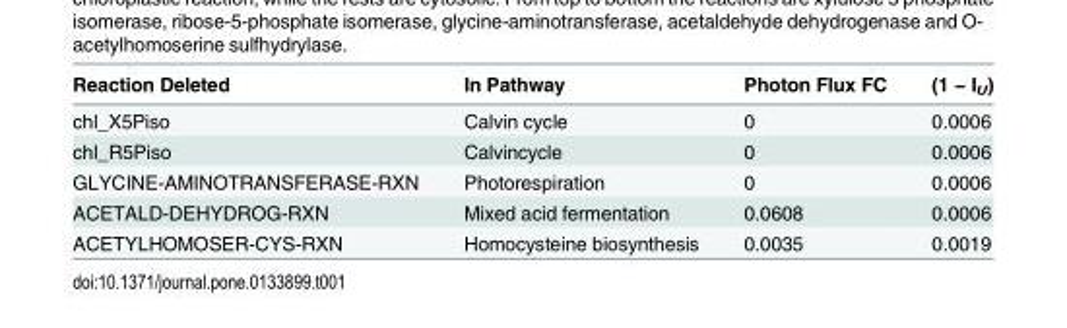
<table><thead><tr><td>Reaction Deleted</td><td>In Pathway</td><td>Photon Flux FC</td><td>(1 − I<sub>U</sub>)</td></tr></thead><tbody><tr><td>chl_X5Piso</td><td>Calvin cycle</td><td>0</td><td>0.0006</td></tr><tr><td>chl_R5Piso</td><td>Calvincycle</td><td>0</td><td>0.0006</td></tr><tr><td>GLYCINE-AMINOTRANSFERASE-RXN</td><td>Photorespiration</td><td>0</td><td>0.0006</td></tr><tr><td>ACETALD-DEHYDROG-RXN</td><td>Mixed acid fermentation</td><td>0.0608</td><td>0.0006</td></tr><tr><td>ACETYLHOMOSER-CYS-RXN</td><td>Homocysteine biosynthesis</td><td>0.0035</td><td>0.0019</td></tr></tbody></table>